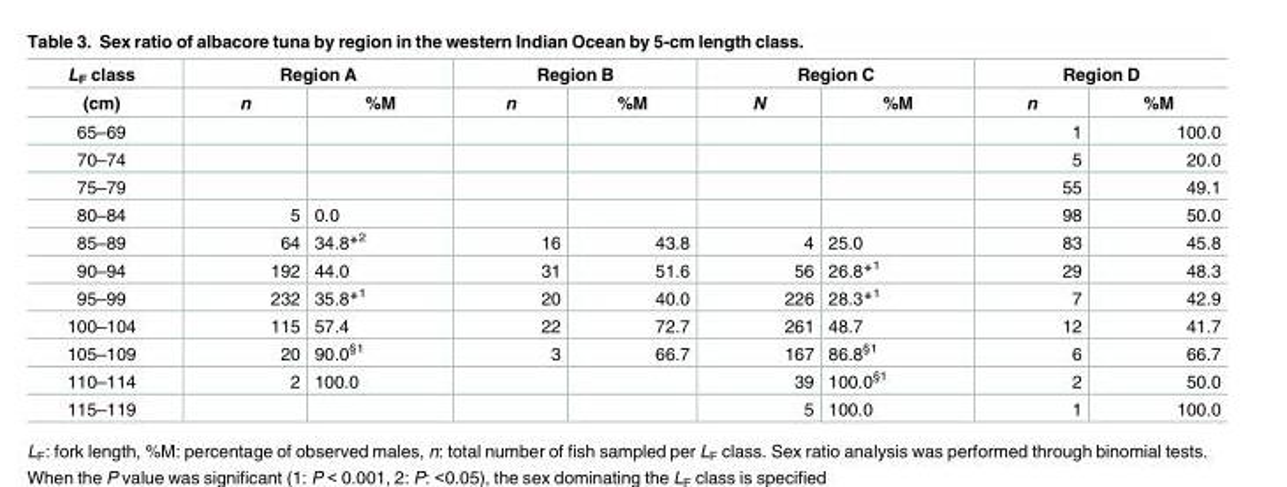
<table><thead><tr><td rowspan="2">L<sub>F</sub> class (cm)</td><td colspan="2">Region A</td><td colspan="2">Region B</td><td colspan="2">Region C</td><td colspan="2">Region D</td></tr><tr><td>n</td><td>%M</td><td>n</td><td>%M</td><td>N</td><td>%M</td><td>n</td><td>%M</td></tr></thead><tbody><tr><td>65–69</td><td></td><td></td><td></td><td></td><td></td><td></td><td>1</td><td>100.0</td></tr><tr><td>70–74</td><td></td><td></td><td></td><td></td><td></td><td></td><td>5</td><td>20.0</td></tr><tr><td>75–79</td><td></td><td></td><td></td><td></td><td></td><td></td><td>55</td><td>49.1</td></tr><tr><td>80–84</td><td>5</td><td>0.0</td><td></td><td></td><td></td><td></td><td>98</td><td>50.0</td></tr><tr><td>85–89</td><td>64</td><td>34.8*<sup>2</sup></td><td>16</td><td>43.8</td><td>4</td><td>25.0</td><td>83</td><td>45.8</td></tr><tr><td>90–94</td><td>192</td><td>44.0</td><td>31</td><td>51.6</td><td>56</td><td>26.8*<sup>1</sup></td><td>29</td><td>48.3</td></tr><tr><td>95–99</td><td>232</td><td>35.8*<sup>1</sup></td><td>20</td><td>40.0</td><td>226</td><td>28.3*<sup>1</sup></td><td>7</td><td>42.9</td></tr><tr><td>100–104</td><td>115</td><td>57.4</td><td>22</td><td>72.7</td><td>261</td><td>48.7</td><td>12</td><td>41.7</td></tr><tr><td>105–109</td><td>20</td><td>90.0<sup>§1</sup></td><td>3</td><td>66.7</td><td>167</td><td>86.8<sup>§1</sup></td><td>6</td><td>66.7</td></tr><tr><td>110–114</td><td>2</td><td>100.0</td><td></td><td></td><td>39</td><td>100.0<sup>§1</sup></td><td>2</td><td>50.0</td></tr><tr><td>115–119</td><td></td><td></td><td></td><td></td><td>5</td><td>100.0</td><td>1</td><td>100.0</td></tr></tbody></table>